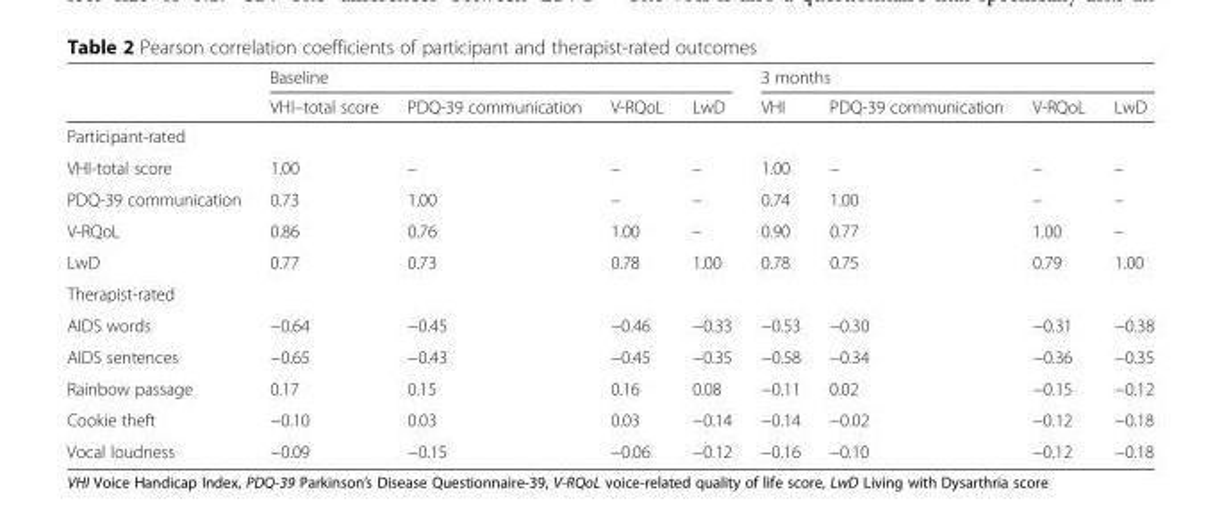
<table><thead><tr><td rowspan="2"></td><td colspan="4">Baseline</td><td colspan="4">3 months</td></tr><tr><td>VHI–total score</td><td>PDQ-39 communication</td><td>V-RQoL</td><td>LwD</td><td>VHI</td><td>PDQ-39 communication</td><td>V-RQoL</td><td>LwD</td></tr></thead><tbody><tr><td colspan="9">Participant-rated</td></tr><tr><td>VHI-total score</td><td>1.00</td><td>–</td><td>–</td><td>–</td><td>1.00</td><td>–</td><td>–</td><td>–</td></tr><tr><td>PDQ-39 communication</td><td>0.73</td><td>1.00</td><td>–</td><td>–</td><td>0.74</td><td>1.00</td><td>–</td><td>–</td></tr><tr><td>V-RQoL</td><td>0.86</td><td>0.76</td><td>1.00</td><td>–</td><td>0.90</td><td>0.77</td><td>1.00</td><td>–</td></tr><tr><td>LwD</td><td>0.77</td><td>0.73</td><td>0.78</td><td>1.00</td><td>0.78</td><td>0.75</td><td>0.79</td><td>1.00</td></tr><tr><td colspan="9">Therapist-rated</td></tr><tr><td>AIDS words</td><td>−0.64</td><td>−0.45</td><td>−0.46</td><td>−0.33</td><td>−0.53</td><td>−0.30</td><td>−0.31</td><td>−0.38</td></tr><tr><td>AIDS sentences</td><td>−0.65</td><td>−0.43</td><td>−0.45</td><td>−0.35</td><td>−0.58</td><td>−0.34</td><td>−0.36</td><td>−0.35</td></tr><tr><td>Rainbow passage</td><td>0.17</td><td>0.15</td><td>0.16</td><td>0.08</td><td>−0.11</td><td>0.02</td><td>−0.15</td><td>−0.12</td></tr><tr><td>Cookie theft</td><td>−0.10</td><td>0.03</td><td>0.03</td><td>−0.14</td><td>−0.14</td><td>−0.02</td><td>−0.12</td><td>−0.18</td></tr><tr><td>Vocal loudness</td><td>−0.09</td><td>−0.15</td><td>−0.06</td><td>−0.12</td><td>−0.16</td><td>−0.10</td><td>−0.12</td><td>−0.18</td></tr></tbody></table>